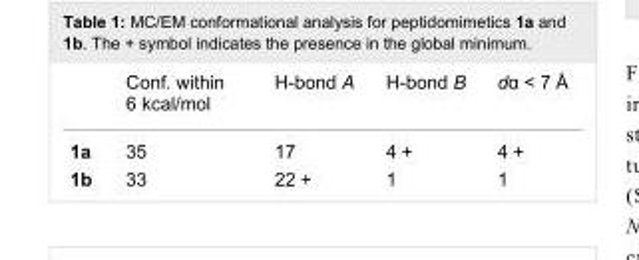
<table><thead><tr><td></td><td>Conf. within 6 kcal/mol</td><td>H-bond A</td><td>H-bond B</td><td>dα &lt; 7 Å</td></tr></thead><tbody><tr><td>1a</td><td>35</td><td>17</td><td>4 +</td><td>4 +</td></tr><tr><td>1b</td><td>33</td><td>22 +</td><td>1</td><td>1</td></tr></tbody></table>